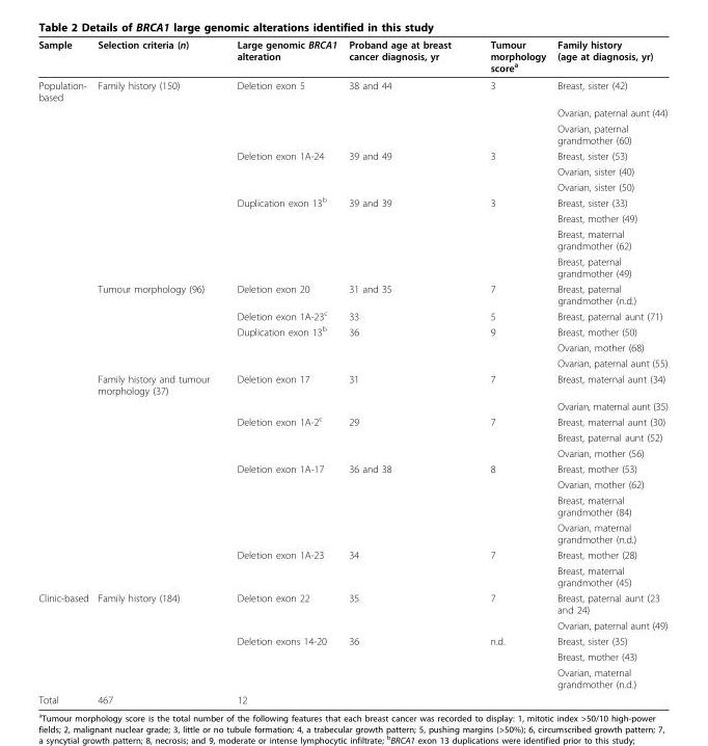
<table><thead><tr><td>Sample</td><td>Selection criteria (n)</td><td>Large genomic BRCA1 alteration</td><td>Proband age at breast cancer diagnosis, yr</td><td>Tumour morphology score<sup>a</sup></td><td>Family history (age at diagnosis, yr)</td></tr></thead><tbody><tr><td rowspan="26">Population- based</td><td>Family history (150)</td><td>Deletion exon 5</td><td>38 and 44</td><td>3</td><td>Breast, sister (42)</td></tr><tr><td></td><td></td><td></td><td></td><td>Ovarian, paternal aunt (44)</td></tr><tr><td></td><td></td><td></td><td></td><td>Ovarian, paternal grandmother (60)</td></tr><tr><td></td><td>Deletion exon 1A-24</td><td>39 and 49</td><td>3</td><td>Breast, sister (53)</td></tr><tr><td></td><td></td><td></td><td></td><td>Ovarian, sister (40)</td></tr><tr><td></td><td></td><td></td><td></td><td>Ovarian, sister (50)</td></tr><tr><td></td><td>Duplication exon 13<sup>b</sup></td><td>39 and 39</td><td>3</td><td>Breast, sister (33)</td></tr><tr><td></td><td></td><td></td><td></td><td>Breast, mother (49)</td></tr><tr><td></td><td></td><td></td><td></td><td>Breast, maternal grandmother (62)</td></tr><tr><td></td><td></td><td></td><td></td><td>Breast, paternal grandmother (49)</td></tr><tr><td>Tumour morphology (96)</td><td>Deletion exon 20</td><td>31 and 35</td><td>7</td><td>Breast, paternal grandmother (n.d.)</td></tr><tr><td></td><td>Deletion exon 1A-23<sup>c</sup></td><td>33</td><td>5</td><td>Breast, paternal aunt (71)</td></tr><tr><td></td><td>Duplication exon 13<sup>b</sup></td><td>36</td><td>9</td><td>Breast, mother (50)</td></tr><tr><td></td><td></td><td></td><td></td><td>Ovarian, mother (68)</td></tr><tr><td></td><td></td><td></td><td></td><td>Ovarian, paternal aunt (55)</td></tr><tr><td>Family history and tumour morphology (37)</td><td>Deletion exon 17</td><td>31</td><td>7</td><td>Breast, maternal aunt (34)</td></tr><tr><td></td><td></td><td></td><td></td><td>Ovarian, maternal aunt (35)</td></tr><tr><td></td><td>Deletion exon 1A-2<sup>c</sup></td><td>29</td><td>7</td><td>Breast, maternal aunt (30)</td></tr><tr><td></td><td></td><td></td><td></td><td>Breast, paternal aunt (52)</td></tr><tr><td></td><td></td><td></td><td></td><td>Ovarian, mother (56)</td></tr><tr><td></td><td>Deletion exon 1A-17</td><td>36 and 38</td><td>8</td><td>Breast, mother (53)</td></tr><tr><td></td><td></td><td></td><td></td><td>Ovarian, mother (62)</td></tr><tr><td></td><td></td><td></td><td></td><td>Breast, maternal grandmother (84)</td></tr><tr><td></td><td></td><td></td><td></td><td>Ovarian, maternal grandmother (n.d.)</td></tr><tr><td></td><td>Deletion exon 1A-23</td><td>34</td><td>7</td><td>Breast, mother (28)</td></tr><tr><td></td><td></td><td></td><td></td><td>Breast, maternal grandmother (45)</td></tr><tr><td rowspan="5">Clinic-based</td><td>Family history (184)</td><td>Deletion exon 22</td><td>35</td><td>7</td><td>Breast, paternal aunt (23 and 24)</td></tr><tr><td></td><td></td><td></td><td></td><td>Ovarian, paternal aunt (49)</td></tr><tr><td></td><td>Deletion exons 14-20</td><td>36</td><td>n.d.</td><td>Breast, sister (35)</td></tr><tr><td></td><td></td><td></td><td></td><td>Breast, mother (43)</td></tr><tr><td></td><td></td><td></td><td></td><td>Ovarian, maternal grandmother (n.d.)</td></tr><tr><td>Total</td><td>467</td><td>12</td><td></td><td></td><td></td></tr></tbody></table>